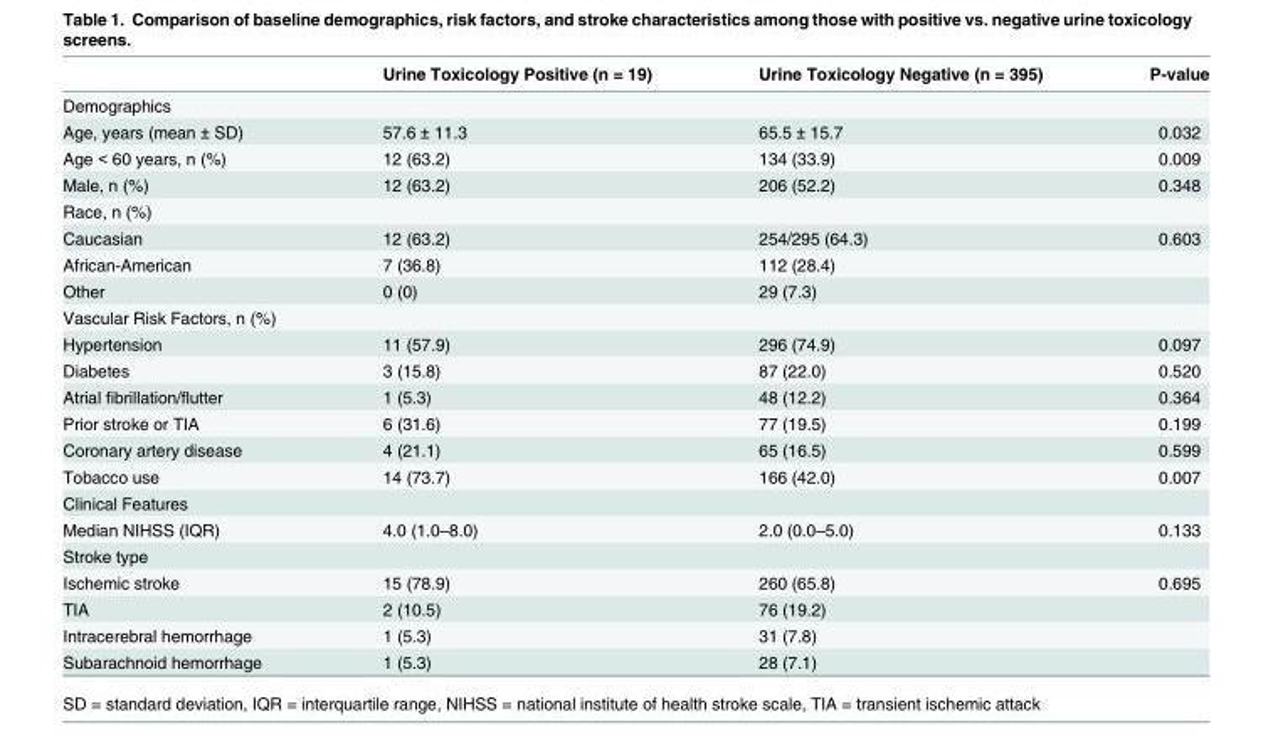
<table><thead><tr><td></td><td>Urine Toxicology Positive (n = 19)</td><td>Urine Toxicology Negative (n = 395)</td><td>P-value</td></tr></thead><tbody><tr><td colspan="4">Demographics</td></tr><tr><td>Age, years (mean ± SD)</td><td>57.6 ± 11.3</td><td>65.5 ± 15.7</td><td>0.032</td></tr><tr><td>Age &lt; 60 years, n (%)</td><td>12 (63.2)</td><td>134 (33.9)</td><td>0.009</td></tr><tr><td>Male, n (%)</td><td>12 (63.2)</td><td>206 (52.2)</td><td>0.348</td></tr><tr><td colspan="4">Race, n (%)</td></tr><tr><td>Caucasian</td><td>12 (63.2)</td><td>254/295 (64.3)</td><td>0.603</td></tr><tr><td>African-American</td><td>7 (36.8)</td><td>112 (28.4)</td><td></td></tr><tr><td>Other</td><td>0 (0)</td><td>29 (7.3)</td><td></td></tr><tr><td colspan="4">Vascular Risk Factors, n (%)</td></tr><tr><td>Hypertension</td><td>11 (57.9)</td><td>296 (74.9)</td><td>0.097</td></tr><tr><td>Diabetes</td><td>3 (15.8)</td><td>87 (22.0)</td><td>0.520</td></tr><tr><td>Atrial fibrillation/flutter</td><td>1 (5.3)</td><td>48 (12.2)</td><td>0.364</td></tr><tr><td>Prior stroke or TIA</td><td>6 (31.6)</td><td>77 (19.5)</td><td>0.199</td></tr><tr><td>Coronary artery disease</td><td>4 (21.1)</td><td>65 (16.5)</td><td>0.599</td></tr><tr><td>Tobacco use</td><td>14 (73.7)</td><td>166 (42.0)</td><td>0.007</td></tr><tr><td colspan="4">Clinical Features</td></tr><tr><td>Median NIHSS (IQR)</td><td>4.0 (1.0–8.0)</td><td>2.0 (0.0–5.0)</td><td>0.133</td></tr><tr><td colspan="4">Stroke type</td></tr><tr><td>Ischemic stroke</td><td>15 (78.9)</td><td>260 (65.8)</td><td>0.695</td></tr><tr><td>TIA</td><td>2 (10.5)</td><td>76 (19.2)</td><td></td></tr><tr><td>Intracerebral hemorrhage</td><td>1 (5.3)</td><td>31 (7.8)</td><td></td></tr><tr><td>Subarachnoid hemorrhage</td><td>1 (5.3)</td><td>28 (7.1)</td><td></td></tr></tbody></table>